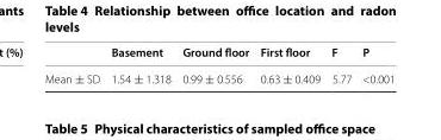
<table><thead><tr><td></td><td>Basement</td><td>Ground floor</td><td>First floor</td><td>F</td><td>P</td></tr></thead><tbody><tr><td>Mean ± SD</td><td>1.54 ± 1.318</td><td>0.99 ± 0.556</td><td>0.63 ± 0.409</td><td>5.77</td><td>&lt;0.001</td></tr></tbody></table>